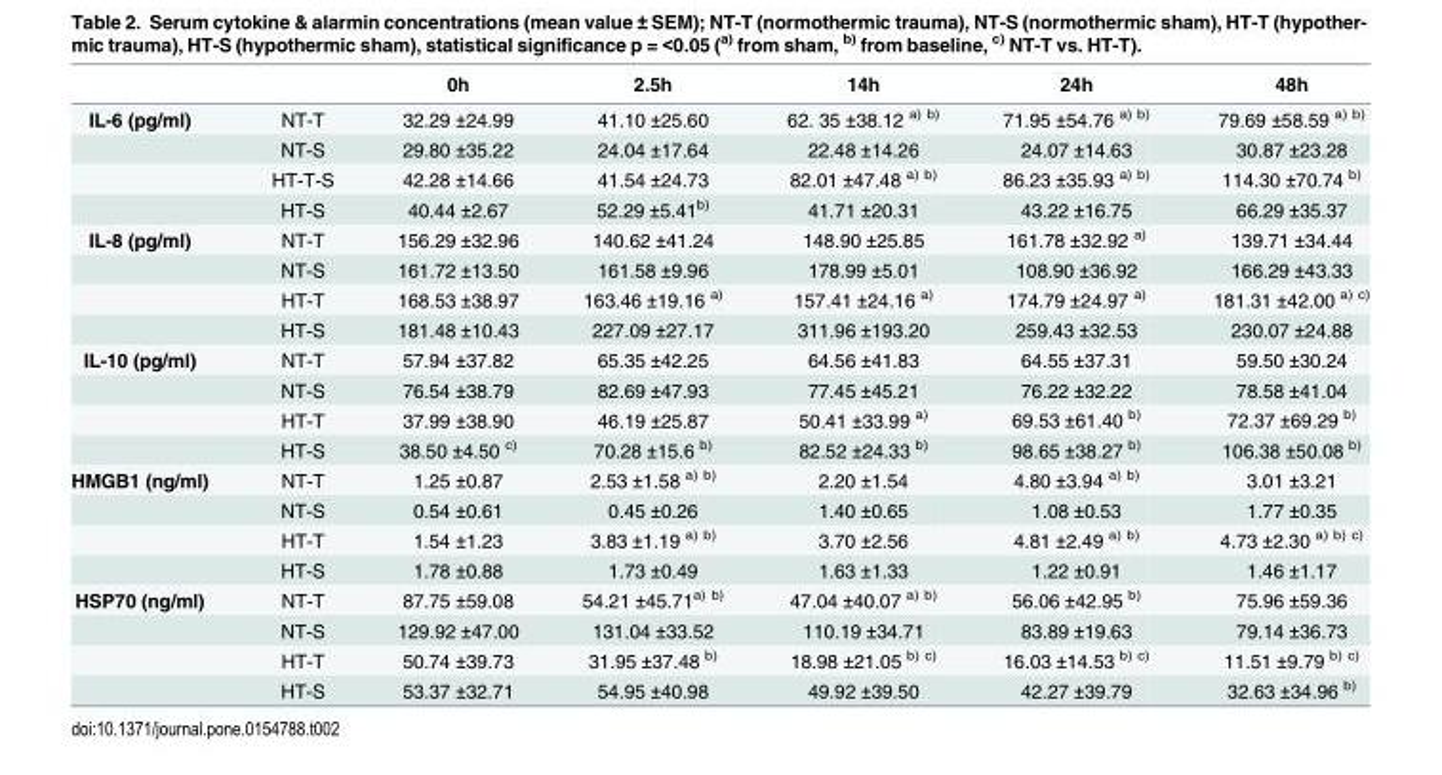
<table><thead><tr><td></td><td></td><td>0h</td><td>2.5h</td><td>14h</td><td>24h</td><td>48h</td></tr></thead><tbody><tr><td rowspan="4">IL-6 (pg/ml)</td><td>NT-T</td><td>32.29 ±24.99</td><td>41.10 ±25.60</td><td>62. 35 ±38.12 <sup>a) b)</sup></td><td>71.95 ±54.76 <sup>a) b)</sup></td><td>79.69 ±58.59 <sup>a) b)</sup></td></tr><tr><td>NT-S</td><td>29.80 ±35.22</td><td>24.04 ±17.64</td><td>22.48 ±14.26</td><td>24.07 ±14.63</td><td>30.87 ±23.28</td></tr><tr><td>HT-T-S</td><td>42.28 ±14.66</td><td>41.54 ±24.73</td><td>82.01 ±47.48 <sup>a) b)</sup></td><td>86.23 ±35.93 <sup>a) b)</sup></td><td>114.30 ±70.74 <sup>b)</sup></td></tr><tr><td>HT-S</td><td>40.44 ±2.67</td><td>52.29 ±5.41<sup>b)</sup></td><td>41.71 ±20.31</td><td>43.22 ±16.75</td><td>66.29 ±35.37</td></tr><tr><td rowspan="4">IL-8 (pg/ml)</td><td>NT-T</td><td>156.29 ±32.96</td><td>140.62 ±41.24</td><td>148.90 ±25.85</td><td>161.78 ±32.92 <sup>a)</sup></td><td>139.71 ±34.44</td></tr><tr><td>NT-S</td><td>161.72 ±13.50</td><td>161.58 ±9.96</td><td>178.99 ±5.01</td><td>108.90 ±36.92</td><td>166.29 ±43.33</td></tr><tr><td>HT-T</td><td>168.53 ±38.97</td><td>163.46 ±19.16 <sup>a)</sup></td><td>157.41 ±24.16 <sup>a)</sup></td><td>174.79 ±24.97 <sup>a)</sup></td><td>181.31 ±42.00 <sup>a) c)</sup></td></tr><tr><td>HT-S</td><td>181.48 ±10.43</td><td>227.09 ±27.17</td><td>311.96 ±193.20</td><td>259.43 ±32.53</td><td>230.07 ±24.88</td></tr><tr><td rowspan="4">IL-10 (pg/ml)</td><td>NT-T</td><td>57.94 ±37.82</td><td>65.35 ±42.25</td><td>64.56 ±41.83</td><td>64.55 ±37.31</td><td>59.50 ±30.24</td></tr><tr><td>NT-S</td><td>76.54 ±38.79</td><td>82.69 ±47.93</td><td>77.45 ±45.21</td><td>76.22 ±32.22</td><td>78.58 ±41.04</td></tr><tr><td>HT-T</td><td>37.99 ±38.90</td><td>46.19 ±25.87</td><td>50.41 ±33.99 <sup>a)</sup></td><td>69.53 ±61.40 <sup>b)</sup></td><td>72.37 ±69.29 <sup>b)</sup></td></tr><tr><td>HT-S</td><td>38.50 ±4.50 <sup>c)</sup></td><td>70.28 ±15.6 <sup>b)</sup></td><td>82.52 ±24.33 <sup>b)</sup></td><td>98.65 ±38.27 <sup>b)</sup></td><td>106.38 ±50.08 <sup>b)</sup></td></tr><tr><td rowspan="4">HMGB1 (ng/ml)</td><td>NT-T</td><td>1.25 ±0.87</td><td>2.53 ±1.58 <sup>a) b)</sup></td><td>2.20 ±1.54</td><td>4.80 ±3.94 <sup>a) b)</sup></td><td>3.01 ±3.21</td></tr><tr><td>NT-S</td><td>0.54 ±0.61</td><td>0.45 ±0.26</td><td>1.40 ±0.65</td><td>1.08 ±0.53</td><td>1.77 ±0.35</td></tr><tr><td>HT-T</td><td>1.54 ±1.23</td><td>3.83 ±1.19 <sup>a) b)</sup></td><td>3.70 ±2.56</td><td>4.81 ±2.49 <sup>a) b)</sup></td><td>4.73 ±2.30 <sup>a) b) c)</sup></td></tr><tr><td>HT-S</td><td>1.78 ±0.88</td><td>1.73 ±0.49</td><td>1.63 ±1.33</td><td>1.22 ±0.91</td><td>1.46 ±1.17</td></tr><tr><td rowspan="4">HSP70 (ng/ml)</td><td>NT-T</td><td>87.75 ±59.08</td><td>54.21 ±45.71<sup>a) b)</sup></td><td>47.04 ±40.07 <sup>a) b)</sup></td><td>56.06 ±42.95 <sup>b)</sup></td><td>75.96 ±59.36</td></tr><tr><td>NT-S</td><td>129.92 ±47.00</td><td>131.04 ±33.52</td><td>110.19 ±34.71</td><td>83.89 ±19.63</td><td>79.14 ±36.73</td></tr><tr><td>HT-T</td><td>50.74 ±39.73</td><td>31.95 ±37.48 <sup>b)</sup></td><td>18.98 ±21.05 <sup>b) c)</sup></td><td>16.03 ±14.53 <sup>b) c)</sup></td><td>11.51 ±9.79 <sup>b) c)</sup></td></tr><tr><td>HT-S</td><td>53.37 ±32.71</td><td>54.95 ±40.98</td><td>49.92 ±39.50</td><td>42.27 ±39.79</td><td>32.63 ±34.96 <sup>b)</sup></td></tr></tbody></table>